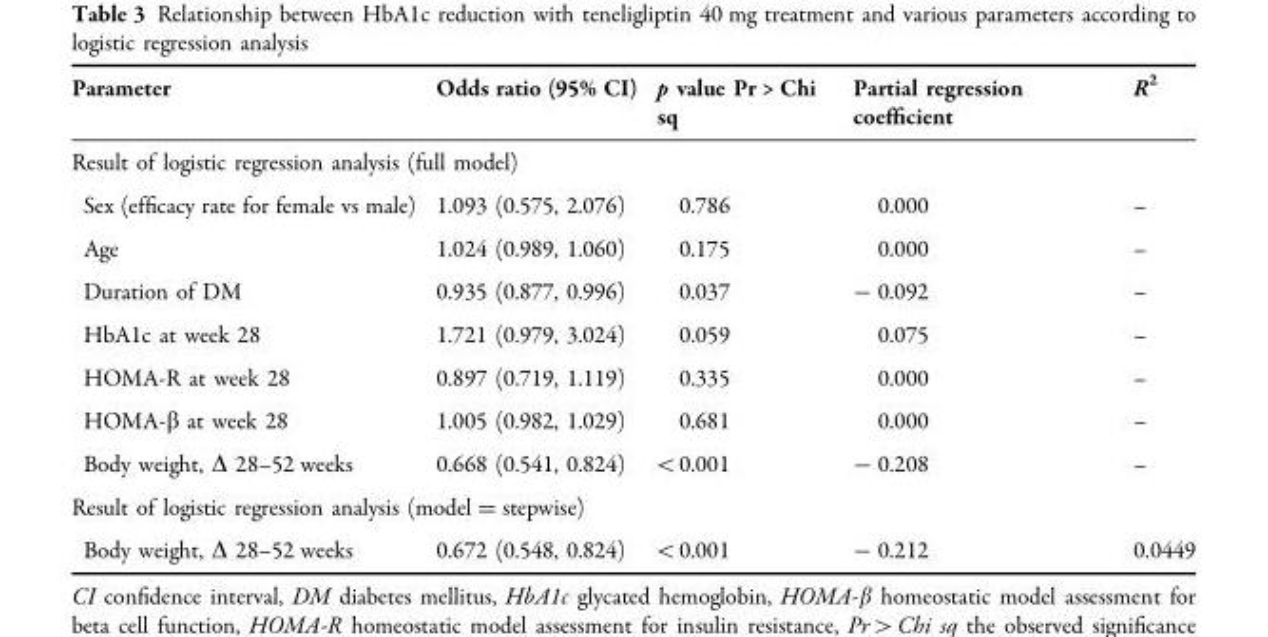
<table><thead><tr><td>Parameter</td><td>Odds ratio (95% CI)</td><td>p value Pr &gt; Chi sq</td><td>Partial regression coefficient</td><td>R<sup>2</sup></td></tr></thead><tbody><tr><td colspan="5">Result of logistic regression analysis (full model)</td></tr><tr><td>Sex (efficacy rate for female vs male)</td><td>1.093 (0.575, 2.076)</td><td>0.786</td><td>0.000</td><td>–</td></tr><tr><td>Age</td><td>1.024 (0.989, 1.060)</td><td>0.175</td><td>0.000</td><td>–</td></tr><tr><td>Duration of DM</td><td>0.935 (0.877, 0.996)</td><td>0.037</td><td>- 0.092</td><td>–</td></tr><tr><td>HbA1c at week 28</td><td>1.721 (0.979, 3.024)</td><td>0.059</td><td>0.075</td><td>–</td></tr><tr><td>HOMA-R at week 28</td><td>0.897 (0.719, 1.119)</td><td>0.335</td><td>0.000</td><td>–</td></tr><tr><td>HOMA-β at week 28</td><td>1.005 (0.982, 1.029)</td><td>0.681</td><td>0.000</td><td>–</td></tr><tr><td>Body weight, ∆ 28–52 weeks</td><td>0.668 (0.541, 0.824)</td><td>&lt;0.001</td><td>- 0.208</td><td>–</td></tr><tr><td colspan="5">Result of logistic regression analysis (model = stepwise)</td></tr><tr><td>Body weight, ∆ 28–52 weeks</td><td>0.672 (0.548, 0.824)</td><td>&lt;0.001</td><td>- 0.212</td><td>0.0449</td></tr></tbody></table>